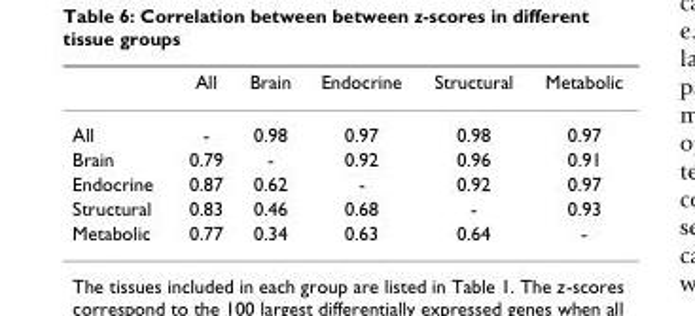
<table><thead><tr><td></td><td>All</td><td>Brain</td><td>Endocrine</td><td>Structural</td><td>Metabolic</td></tr></thead><tbody><tr><td>All</td><td>-</td><td>0.98</td><td>0.97</td><td>0.98</td><td>0.97</td></tr><tr><td>Brain</td><td>0.79</td><td>-</td><td>0.92</td><td>0.96</td><td>0.91</td></tr><tr><td>Endocrine</td><td>0.87</td><td>0.62</td><td>-</td><td>0.92</td><td>0.97</td></tr><tr><td>Structural</td><td>0.83</td><td>0.46</td><td>0.68</td><td>-</td><td>0.93</td></tr><tr><td>Metabolic</td><td>0.77</td><td>0.34</td><td>0.63</td><td>0.64</td><td>-</td></tr></tbody></table>